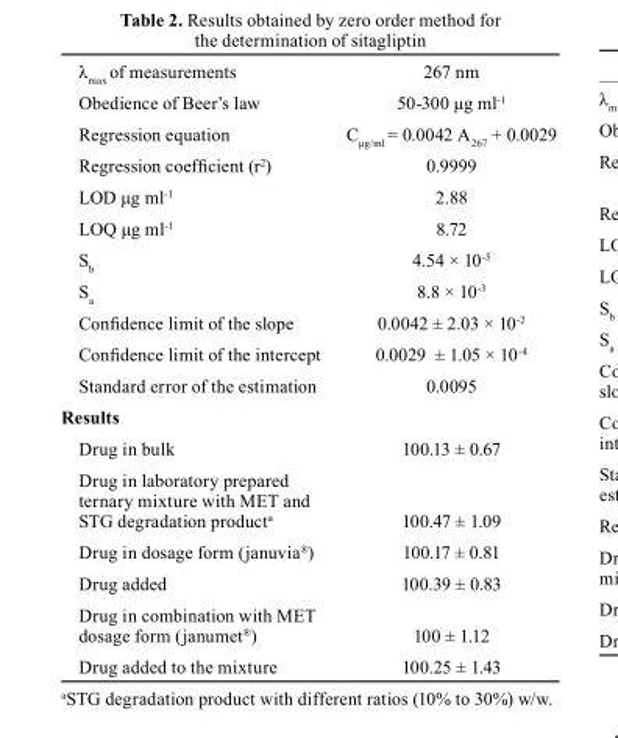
<table><tbody><tr><td>λ<sub>max</sub> of measurements</td><td>267 nm</td></tr><tr><td>Obedience of Beer’s law</td><td>50-300 μg ml<sup>-1</sup></td></tr><tr><td>Regression equation</td><td>C<sub>μg/ml</sub> = 0.0042 A<sub>267</sub> + 0.0029</td></tr><tr><td>Regression coefficient (r<sup>2</sup>)</td><td>0.9999</td></tr><tr><td>LOD μg ml<sup>-1</sup></td><td>2.88</td></tr><tr><td>LOQ μg ml<sup>-1</sup></td><td>8.72</td></tr><tr><td>S<sub>b</sub></td><td>4.54 × 10<sup>-5</sup></td></tr><tr><td>S<sub>a</sub></td><td>8.8 × 10<sup>-3</sup></td></tr><tr><td>Confidence limit of the slope</td><td>0.0042 ± 2.03 × 10<sup>-2</sup></td></tr><tr><td>Confidence limit of the intercept</td><td>0.0029 ± 1.05 × 10<sup>-4</sup></td></tr><tr><td>Standard error of the estimation</td><td>0.0095</td></tr><tr><td colspan="2">results</td></tr><tr><td>Drug in bulk</td><td>100.13 ± 0.67</td></tr><tr><td>Drug in laboratory prepared ternary mixture with MET and STG degradation product<sup>a</sup></td><td>100.47 ± 1.09</td></tr><tr><td>Drug in dosage form (januvia<sup>®</sup>)</td><td>100.17 ± 0.81</td></tr><tr><td>Drug added</td><td>100.39 ± 0.83</td></tr><tr><td>Drug in combination with MET dosage form (janumet<sup>®</sup>)</td><td>100 ± 1.12</td></tr><tr><td>Drug added to the mixture</td><td>100.25 ± 1.43</td></tr></tbody></table>